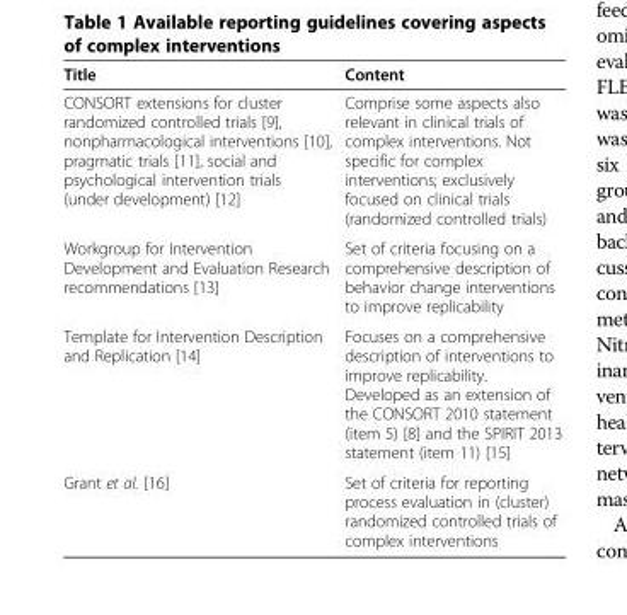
<table><thead><tr><td>Title</td><td>Content</td></tr></thead><tbody><tr><td>CONSORT extensions for cluster randomized controlled trials [9], nonpharmacological interventions [10], pragmatic trials [11], social and psychological intervention trials (under development) [12]</td><td>Comprise some aspects also relevant in clinical trials of complex interventions. Not specific for complex interventions; exclusively focused on clinical trials (randomized controlled trials)</td></tr><tr><td>Workgroup for Intervention Development and Evaluation Research recommendations [13]</td><td>Set of criteria focusing on a comprehensive description of behavior change interventions to improve replicability</td></tr><tr><td>Template for Intervention Description and Replication [14]</td><td>Focuses on a comprehensive description of interventions to improve replicability. Developed as an extension of the CONSORT 2010 statement (item 5) [8] and the SPIRIT 2013 statement (item 11) [15]</td></tr><tr><td>Grant et al. [16]</td><td>Set of criteria for reporting process evaluation in (cluster) randomized controlled trials of complex interventions</td></tr></tbody></table>